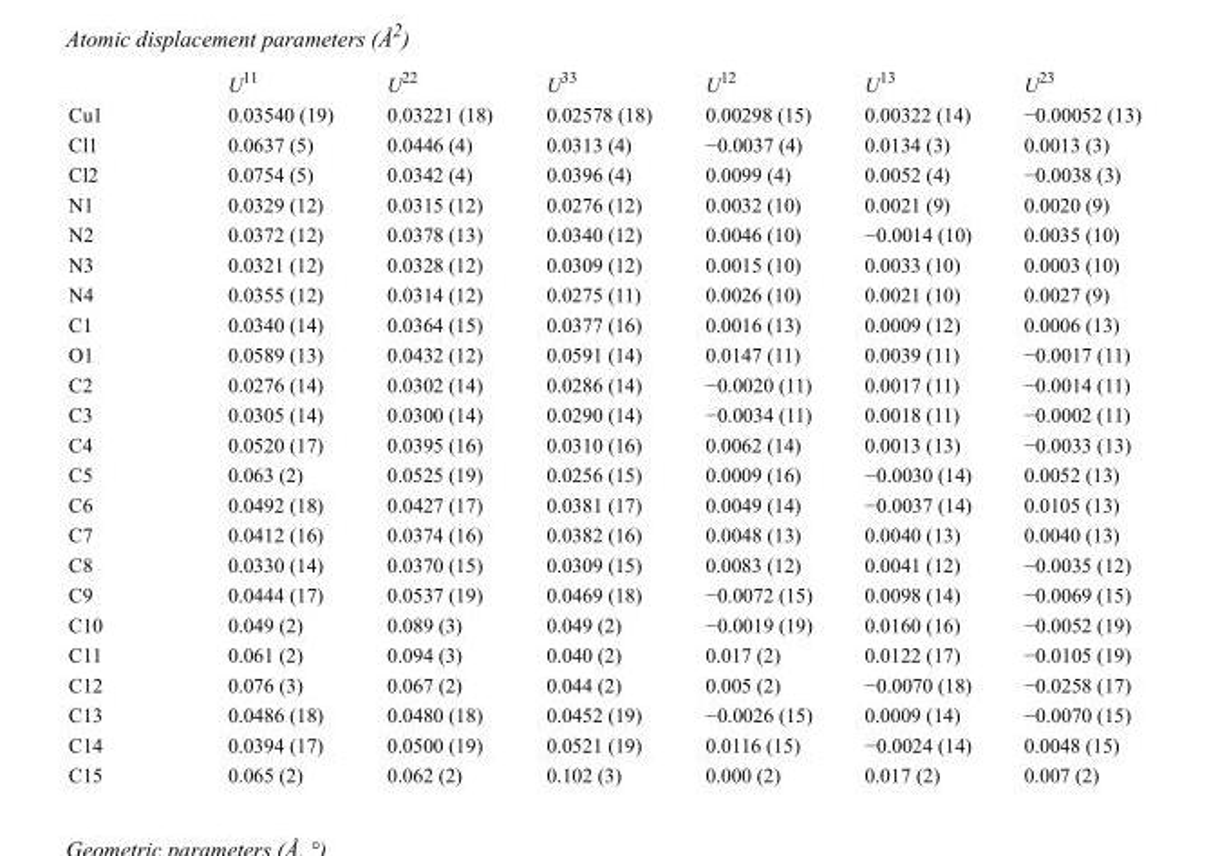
<table><thead><tr><td></td><td>U<sup>11</sup></td><td>U<sup>22</sup></td><td>U<sup>33</sup></td><td>U<sup>12</sup></td><td>U<sup>13</sup></td><td>U<sup>23</sup></td></tr></thead><tbody><tr><td>Cu1</td><td>0.03540 (19)</td><td>0.03221 (18)</td><td>0.02578 (18)</td><td>0.00298 (15)</td><td>0.00322 (14)</td><td>−0.00052 (13)</td></tr><tr><td>Cl1</td><td>0.0637 (5)</td><td>0.0446 (4)</td><td>0.0313 (4)</td><td>−0.0037 (4)</td><td>0.0134 (3)</td><td>0.0013 (3)</td></tr><tr><td>Cl2</td><td>0.0754 (5)</td><td>0.0342 (4)</td><td>0.0396 (4)</td><td>0.0099 (4)</td><td>0.0052 (4)</td><td>−0.0038 (3)</td></tr><tr><td>N1</td><td>0.0329 (12)</td><td>0.0315 (12)</td><td>0.0276 (12)</td><td>0.0032 (10)</td><td>0.0021 (9)</td><td>0.0020 (9)</td></tr><tr><td>N2</td><td>0.0372 (12)</td><td>0.0378 (13)</td><td>0.0340 (12)</td><td>0.0046 (10)</td><td>−0.0014 (10)</td><td>0.0035 (10)</td></tr><tr><td>N3</td><td>0.0321 (12)</td><td>0.0328 (12)</td><td>0.0309 (12)</td><td>0.0015 (10)</td><td>0.0033 (10)</td><td>0.0003 (10)</td></tr><tr><td>N4</td><td>0.0355 (12)</td><td>0.0314 (12)</td><td>0.0275 (11)</td><td>0.0026 (10)</td><td>0.0021 (10)</td><td>0.0027 (9)</td></tr><tr><td>C1</td><td>0.0340 (14)</td><td>0.0364 (15)</td><td>0.0377 (16)</td><td>0.0016 (13)</td><td>0.0009 (12)</td><td>0.0006 (13)</td></tr><tr><td>O1</td><td>0.0589 (13)</td><td>0.0432 (12)</td><td>0.0591 (14)</td><td>0.0147 (11)</td><td>0.0039 (11)</td><td>−0.0017 (11)</td></tr><tr><td>C2</td><td>0.0276 (14)</td><td>0.0302 (14)</td><td>0.0286 (14)</td><td>−0.0020 (11)</td><td>0.0017 (11)</td><td>−0.0014 (11)</td></tr><tr><td>C3</td><td>0.0305 (14)</td><td>0.0300 (14)</td><td>0.0290 (14)</td><td>−0.0034 (11)</td><td>0.0018 (11)</td><td>−0.0002 (11)</td></tr><tr><td>C4</td><td>0.0520 (17)</td><td>0.0395 (16)</td><td>0.0310 (16)</td><td>0.0062 (14)</td><td>0.0013 (13)</td><td>−0.0033 (13)</td></tr><tr><td>C5</td><td>0.063 (2)</td><td>0.0525 (19)</td><td>0.0256 (15)</td><td>0.0009 (16)</td><td>−0.0030 (14)</td><td>0.0052 (13)</td></tr><tr><td>C6</td><td>0.0492 (18)</td><td>0.0427 (17)</td><td>0.0381 (17)</td><td>0.0049 (14)</td><td>−0.0037 (14)</td><td>0.0105 (13)</td></tr><tr><td>C7</td><td>0.0412 (16)</td><td>0.0374 (16)</td><td>0.0382 (16)</td><td>0.0048 (13)</td><td>0.0040 (13)</td><td>0.0040 (13)</td></tr><tr><td>C8</td><td>0.0330 (14)</td><td>0.0370 (15)</td><td>0.0309 (15)</td><td>0.0083 (12)</td><td>0.0041 (12)</td><td>−0.0035 (12)</td></tr><tr><td>C9</td><td>0.0444 (17)</td><td>0.0537 (19)</td><td>0.0469 (18)</td><td>−0.0072 (15)</td><td>0.0098 (14)</td><td>−0.0069 (15)</td></tr><tr><td>C10</td><td>0.049 (2)</td><td>0.089 (3)</td><td>0.049 (2)</td><td>−0.0019 (19)</td><td>0.0160 (16)</td><td>−0.0052 (19)</td></tr><tr><td>C11</td><td>0.061 (2)</td><td>0.094 (3)</td><td>0.040 (2)</td><td>0.017 (2)</td><td>0.0122 (17)</td><td>−0.0105 (19)</td></tr><tr><td>C12</td><td>0.076 (3)</td><td>0.067 (2)</td><td>0.044 (2)</td><td>0.005 (2)</td><td>−0.0070 (18)</td><td>−0.0258 (17)</td></tr><tr><td>C13</td><td>0.0486 (18)</td><td>0.0480 (18)</td><td>0.0452 (19)</td><td>−0.0026 (15)</td><td>0.0009 (14)</td><td>−0.0070 (15)</td></tr><tr><td>C14</td><td>0.0394 (17)</td><td>0.0500 (19)</td><td>0.0521 (19)</td><td>0.0116 (15)</td><td>−0.0024 (14)</td><td>0.0048 (15)</td></tr><tr><td>C15</td><td>0.065 (2)</td><td>0.062 (2)</td><td>0.102 (3)</td><td>0.000 (2)</td><td>0.017 (2)</td><td>0.007 (2)</td></tr></tbody></table>